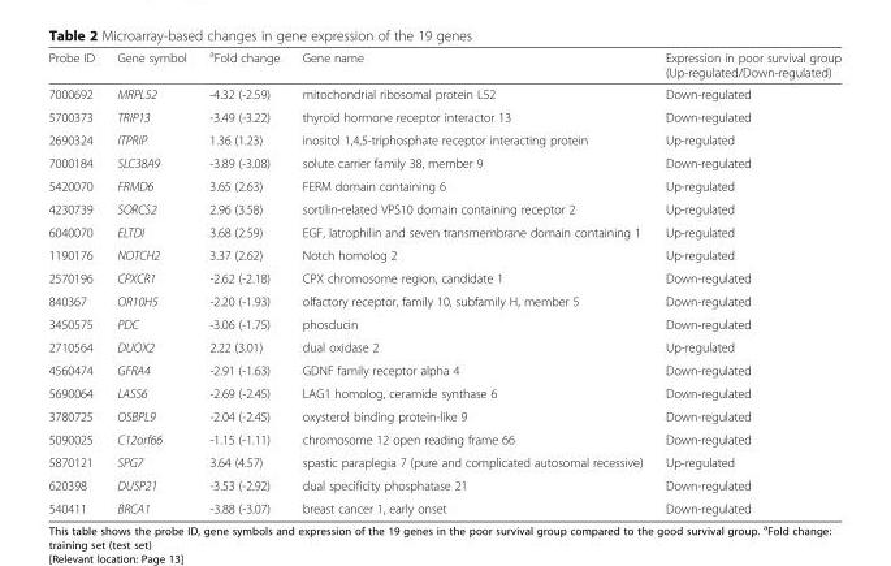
<table><thead><tr><td>Probe ID</td><td>Gene symbol</td><td><sup>a</sup>Fold change</td><td>Gene name</td><td>Expression in poor survival group (Up-regulated/Down-regulated)</td></tr></thead><tbody><tr><td>7000692</td><td>MRPL52</td><td>-4.32 (-2.59)</td><td>mitochondrial ribosomal protein L52</td><td>Down-regulated</td></tr><tr><td>5700373</td><td>TRIP13</td><td>-3.49 (-3.22)</td><td>thyroid hormone receptor interactor 13</td><td>Down-regulated</td></tr><tr><td>2690324</td><td>ITPRIP</td><td>1.36 (1.23)</td><td>inositol 1,4,5-triphosphate receptor interacting protein</td><td>Up-regulated</td></tr><tr><td>7000184</td><td>SLC38A9</td><td>-3.89 (-3.08)</td><td>solute carrier family 38, member 9</td><td>Down-regulated</td></tr><tr><td>5420070</td><td>FRMD6</td><td>3.65 (2.63)</td><td>FERM domain containing 6</td><td>Up-regulated</td></tr><tr><td>4230739</td><td>SORCS2</td><td>2.96 (3.58)</td><td>sortilin-related VPS10 domain containing receptor 2</td><td>Up-regulated</td></tr><tr><td>6040070</td><td>ELTDI</td><td>3.68 (2.59)</td><td>EGF, latrophilin and seven transmembrane domain containing 1</td><td>Up-regulated</td></tr><tr><td>1190176</td><td>NOTCH2</td><td>3.37 (2.62)</td><td>Notch homolog 2</td><td>Up-regulated</td></tr><tr><td>2570196</td><td>CPXCR1</td><td>-2.62 (-2.18)</td><td>CPX chromosome region, candidate 1</td><td>Down-regulated</td></tr><tr><td>840367</td><td>OR10H5</td><td>-2.20 (-1.93)</td><td>olfactory receptor, family 10, subfamily H, member 5</td><td>Down-regulated</td></tr><tr><td>3450575</td><td>PDC</td><td>-3.06 (-1.75)</td><td>phosducin</td><td>Down-regulated</td></tr><tr><td>2710564</td><td>DUOX2</td><td>2.22 (3.01)</td><td>dual oxidase 2</td><td>Up-regulated</td></tr><tr><td>4560474</td><td>GFRA4</td><td>-2.91 (-1.63)</td><td>GDNF family receptor alpha 4</td><td>Down-regulated</td></tr><tr><td>5690064</td><td>LASS6</td><td>-2.69 (-2.45)</td><td>LAG1 homolog, ceramide synthase 6</td><td>Down-regulated</td></tr><tr><td>3780725</td><td>OSBPL9</td><td>-2.04 (-2.45)</td><td>oxysterol binding protein-like 9</td><td>Down-regulated</td></tr><tr><td>5090025</td><td>C12orf66</td><td>-1.15 (-1.11)</td><td>chromosome 12 open reading frame 66</td><td>Down-regulated</td></tr><tr><td>5870121</td><td>SPG7</td><td>3.64 (4.57)</td><td>spastic paraplegia 7 (pure and complicated autosomal recessive)</td><td>Up-regulated</td></tr><tr><td>620398</td><td>DUSP21</td><td>-3.53 (-2.92)</td><td>dual specificity phosphatase 21</td><td>Down-regulated</td></tr><tr><td>540411</td><td>BRCA1</td><td>-3.88 (-3.07)</td><td>breast cancer 1, early onset</td><td>Down-regulated</td></tr></tbody></table>